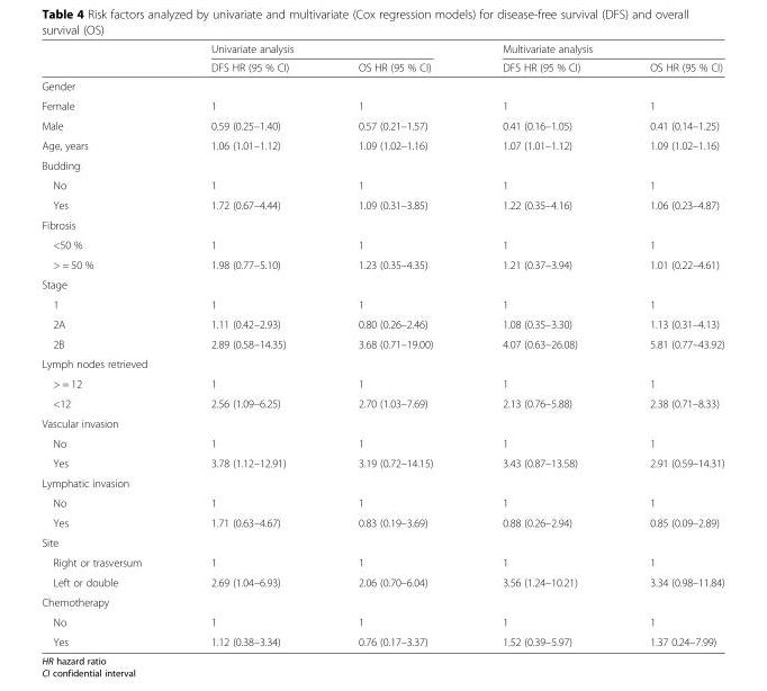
<table><thead><tr><td rowspan="2"></td><td colspan="2">Univariate analysis</td><td colspan="2">Multivariate analysis</td></tr><tr><td>DFS HR (95 % CI)</td><td>OS HR (95 % CI)</td><td>DFS HR (95 % CI)</td><td>OS HR (95 % CI)</td></tr></thead><tbody><tr><td colspan="5">Gender</td></tr><tr><td>Female</td><td>1</td><td>1</td><td>1</td><td>1</td></tr><tr><td>Male</td><td>0.59 (0.25–1.40)</td><td>0.57 (0.21–1.57)</td><td>0.41 (0.16–1.05)</td><td>0.41 (0.14–1.25)</td></tr><tr><td>Age, years</td><td>1.06 (1.01–1.12)</td><td>1.09 (1.02–1.16)</td><td>1.07 (1.01–1.12)</td><td>1.09 (1.02–1.16)</td></tr><tr><td colspan="5">Budding</td></tr><tr><td>No</td><td>1</td><td>1</td><td>1</td><td>1</td></tr><tr><td>Yes</td><td>1.72 (0.67–4.44)</td><td>1.09 (0.31–3.85)</td><td>1.22 (0.35–4.16)</td><td>1.06 (0.23–4.87)</td></tr><tr><td colspan="5">Fibrosis</td></tr><tr><td>&lt;50 %</td><td>1</td><td>1</td><td>1</td><td>1</td></tr><tr><td>&gt; = 50 %</td><td>1.98 (0.77–5.10)</td><td>1.23 (0.35–4.35)</td><td>1.21 (0.37–3.94)</td><td>1.01 (0.22–4.61)</td></tr><tr><td colspan="5">Stage</td></tr><tr><td>1</td><td>1</td><td>1</td><td>1</td><td>1</td></tr><tr><td>2A</td><td>1.11 (0.42–2.93)</td><td>0.80 (0.26–2.46)</td><td>1.08 (0.35–3.30)</td><td>1.13 (0.31–4.13)</td></tr><tr><td>2B</td><td>2.89 (0.58–14.35)</td><td>3.68 (0.71–19.00)</td><td>4.07 (0.63–26.08)</td><td>5.81 (0.77–43.92)</td></tr><tr><td colspan="5">Lymph nodes retrieved</td></tr><tr><td>&gt; = 12</td><td>1</td><td>1</td><td>1</td><td>1</td></tr><tr><td>&lt;12</td><td>2.56 (1.09–6.25)</td><td>2.70 (1.03–7.69)</td><td>2.13 (0.76–5.88)</td><td>2.38 (0.71–8.33)</td></tr><tr><td colspan="5">Vascular invasion</td></tr><tr><td>No</td><td>1</td><td>1</td><td>1</td><td>1</td></tr><tr><td>Yes</td><td>3.78 (1.12–12.91)</td><td>3.19 (0.72–14.15)</td><td>3.43 (0.87–13.58)</td><td>2.91 (0.59–14.31)</td></tr><tr><td colspan="5">Lymphatic invasion</td></tr><tr><td>No</td><td>1</td><td>1</td><td>1</td><td>1</td></tr><tr><td>Yes</td><td>1.71 (0.63–4.67)</td><td>0.83 (0.19–3.69)</td><td>0.88 (0.26–2.94)</td><td>0.85 (0.09–2.89)</td></tr><tr><td colspan="5">Site</td></tr><tr><td>Right or trasversum</td><td>1</td><td>1</td><td>1</td><td>1</td></tr><tr><td>Left or double</td><td>2.69 (1.04–6.93)</td><td>2.06 (0.70–6.04)</td><td>3.56 (1.24–10.21)</td><td>3.34 (0.98–11.84)</td></tr><tr><td colspan="5">Chemotherapy</td></tr><tr><td>No</td><td>1</td><td>1</td><td>1</td><td>1</td></tr><tr><td>Yes</td><td>1.12 (0.38–3.34)</td><td>0.76 (0.17–3.37)</td><td>1.52 (0.39–5.97)</td><td>1.37 0.24–7.99)</td></tr></tbody></table>